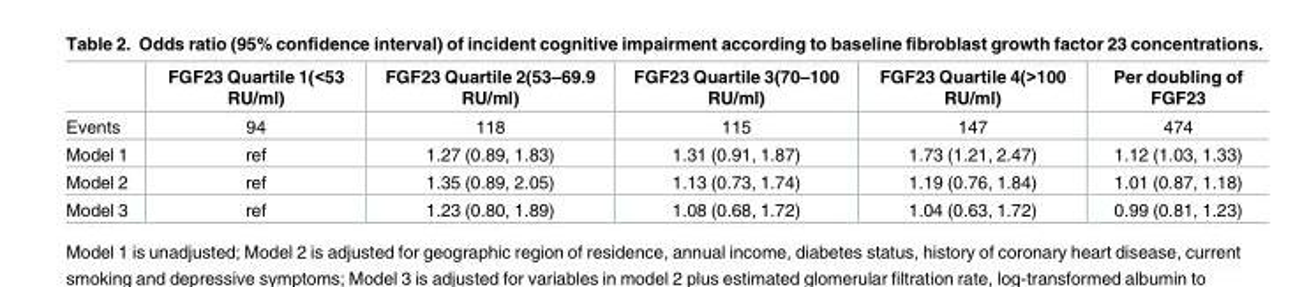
<table><thead><tr><td></td><td>FGF23 Quartile 1(&lt;53 RU/ml)</td><td>FGF23 Quartile 2(53–69.9 RU/ml)</td><td>FGF23 Quartile 3(70–100 RU/ml)</td><td>FGF23 Quartile 4(&gt;100 RU/ml)</td><td>Per doubling of FGF23</td></tr></thead><tbody><tr><td>Events</td><td>94</td><td>118</td><td>115</td><td>147</td><td>474</td></tr><tr><td>Model 1</td><td>ref</td><td>1.27 (0.89, 1.83)</td><td>1.31 (0.91, 1.87)</td><td>1.73 (1.21, 2.47)</td><td>1.12 (1.03, 1.33)</td></tr><tr><td>Model 2</td><td>ref</td><td>1.35 (0.89, 2.05)</td><td>1.13 (0.73, 1.74)</td><td>1.19 (0.76, 1.84)</td><td>1.01 (0.87, 1.18)</td></tr><tr><td>Model 3</td><td>ref</td><td>1.23 (0.80, 1.89)</td><td>1.08 (0.68, 1.72)</td><td>1.04 (0.63, 1.72)</td><td>0.99 (0.81, 1.23)</td></tr></tbody></table>